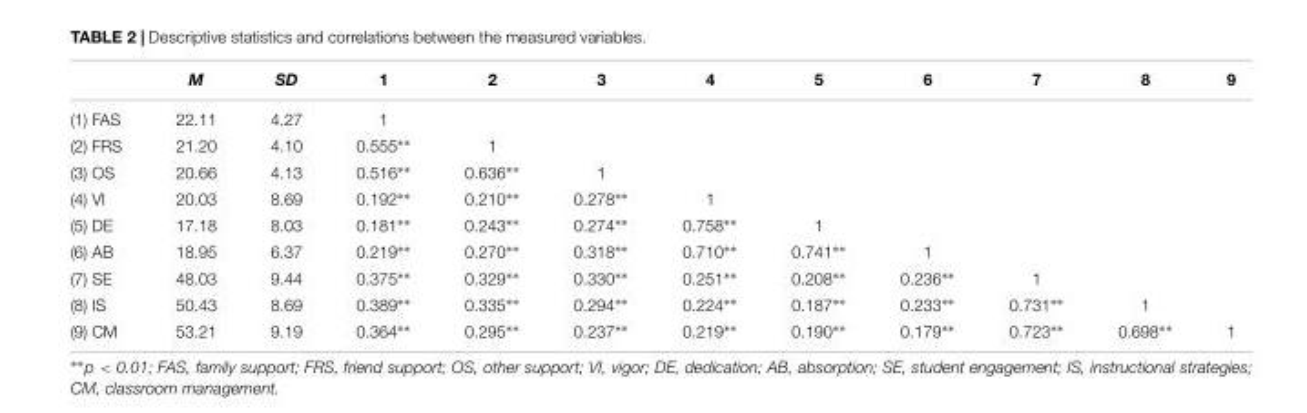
<table><thead><tr><td></td><td>M</td><td>SD</td><td>1</td><td>2</td><td>3</td><td>4</td><td>5</td><td>6</td><td>7</td><td>8</td><td>9</td></tr></thead><tbody><tr><td>(1) FAS</td><td>22.11</td><td>4.27</td><td>1</td><td></td><td></td><td></td><td></td><td></td><td></td><td></td><td></td></tr><tr><td>(2) FRS</td><td>21.20</td><td>4.10</td><td>0.555∗∗</td><td>1</td><td></td><td></td><td></td><td></td><td></td><td></td><td></td></tr><tr><td>(3) OS</td><td>20.66</td><td>4.13</td><td>0.516∗∗</td><td>0.636∗∗</td><td>1</td><td></td><td></td><td></td><td></td><td></td><td></td></tr><tr><td>(4) VI</td><td>20.03</td><td>8.69</td><td>0.192∗∗</td><td>0.210∗∗</td><td>0.278∗∗</td><td>1</td><td></td><td></td><td></td><td></td><td></td></tr><tr><td>(5) DE</td><td>17.18</td><td>8.03</td><td>0.181∗∗</td><td>0.243∗∗</td><td>0.274∗∗</td><td>0.758∗∗</td><td>1</td><td></td><td></td><td></td><td></td></tr><tr><td>(6) AB</td><td>18.95</td><td>6.37</td><td>0.219∗∗</td><td>0.270∗∗</td><td>0.318∗∗</td><td>0.710∗∗</td><td>0.741∗∗</td><td>1</td><td></td><td></td><td></td></tr><tr><td>(7) SE</td><td>48.03</td><td>9.44</td><td>0.375∗∗</td><td>0.329∗∗</td><td>0.330∗∗</td><td>0.251∗∗</td><td>0.208∗∗</td><td>0.236∗∗</td><td>1</td><td></td><td></td></tr><tr><td>(8) IS</td><td>50.43</td><td>8.69</td><td>0.389∗∗</td><td>0.335∗∗</td><td>0.294∗∗</td><td>0.224∗∗</td><td>0.187∗∗</td><td>0.233∗∗</td><td>0.731∗∗</td><td>1</td><td></td></tr><tr><td>(9) CM</td><td>53.21</td><td>9.19</td><td>0.364∗∗</td><td>0.295∗∗</td><td>0.237∗∗</td><td>0.219∗∗</td><td>0.190∗∗</td><td>0.179∗∗</td><td>0.723∗∗</td><td>0.698∗∗</td><td>1</td></tr></tbody></table>